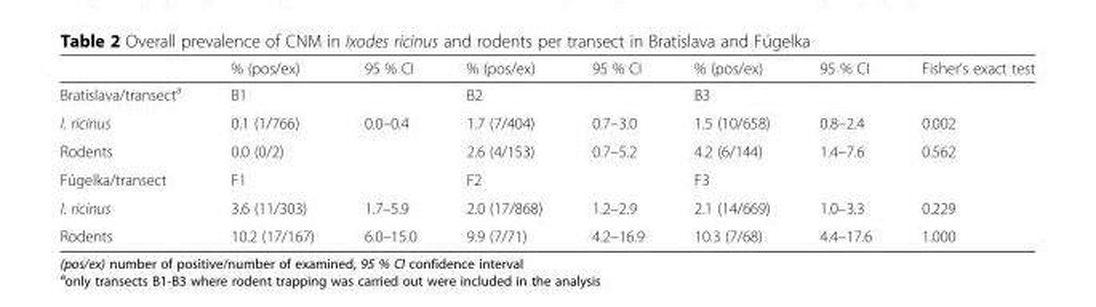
<table><thead><tr><td></td><td>% (pos/ex)</td><td>95 % CI</td><td>% (pos/ex)</td><td>95 % CI</td><td>% (pos/ex)</td><td>95 % CI</td><td>Fisher’s exact test</td></tr></thead><tbody><tr><td>Bratislava/transect<sup>a</sup></td><td colspan="2">B1</td><td colspan="2">B2</td><td colspan="2">B3</td><td></td></tr><tr><td>I. ricinus</td><td>0.1 (1/766)</td><td>0.0–0.4</td><td>1.7 (7/404)</td><td>0.7–3.0</td><td>1.5 (10/658)</td><td>0.8–2.4</td><td>0.002</td></tr><tr><td>Rodents</td><td>0.0 (0/2)</td><td></td><td>2.6 (4/153)</td><td>0.7–5.2</td><td>4.2 (6/144)</td><td>1.4–7.6</td><td>0.562</td></tr><tr><td>Fúgelka/transect</td><td colspan="2">F1</td><td colspan="2">F2</td><td colspan="2">F3</td><td></td></tr><tr><td>I. ricinus</td><td>3.6 (11/303)</td><td>1.7–5.9</td><td>2.0 (17/868)</td><td>1.2–2.9</td><td>2.1 (14/669)</td><td>1.0–3.3</td><td>0.229</td></tr><tr><td>Rodents</td><td>10.2 (17/167)</td><td>6.0–15.0</td><td>9.9 (7/71)</td><td>4.2–16.9</td><td>10.3 (7/68)</td><td>4.4–17.6</td><td>1.000</td></tr></tbody></table>